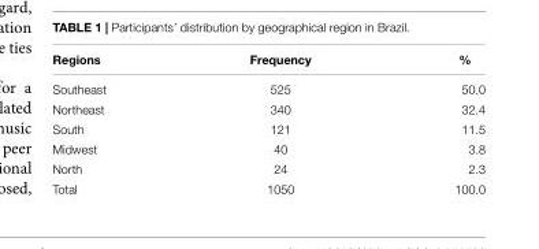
<table><thead><tr><td>Regions</td><td>Frequency</td><td>%</td></tr></thead><tbody><tr><td>Southeast</td><td>525</td><td>50.0</td></tr><tr><td>Northeast</td><td>340</td><td>32.4</td></tr><tr><td>South</td><td>121</td><td>11.5</td></tr><tr><td>Midwest</td><td>40</td><td>3.8</td></tr><tr><td>North</td><td>24</td><td>2.3</td></tr><tr><td>Total</td><td>1050</td><td>100.0</td></tr></tbody></table>